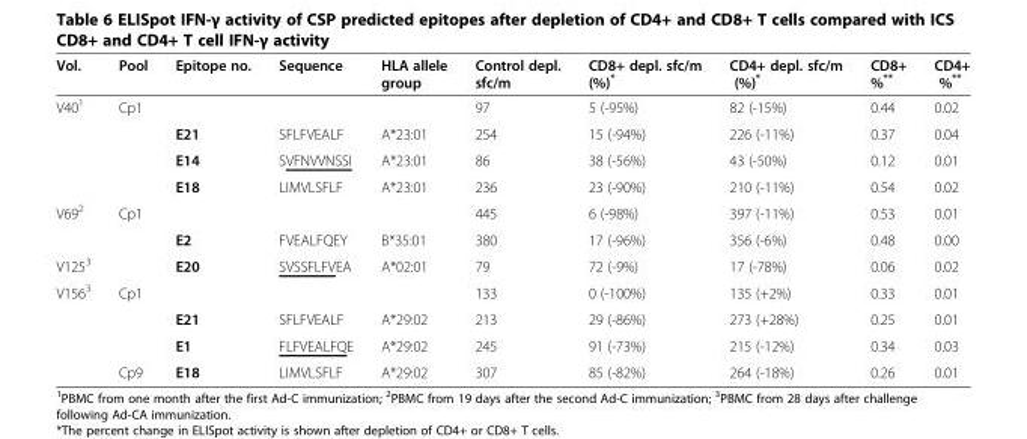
<table><thead><tr><td>Vol.</td><td>Pool</td><td>Epitope no.</td><td>Sequence</td><td>HLA allele group</td><td>Control depl. sfc/m</td><td>CD8+ depl. sfc/m (%)*</td><td>CD4+ depl. sfc/m (%)*</td><td>CD8+ %**</td><td>CD4+ %**</td></tr></thead><tbody><tr><td rowspan="4">V40<sup>1</sup></td><td>Cp1</td><td></td><td></td><td></td><td>97</td><td>5 (-95%)</td><td>82 (-15%)</td><td>0.44</td><td>0.02</td></tr><tr><td></td><td>E21</td><td>SFLFVEALF</td><td>A*23:01</td><td>254</td><td>15 (-94%)</td><td>226 (-11%)</td><td>0.37</td><td>0.04</td></tr><tr><td></td><td>E14</td><td>SVFNVVNSSI</td><td>A*23:01</td><td>86</td><td>38 (-56%)</td><td>43 (-50%)</td><td>0.12</td><td>0.01</td></tr><tr><td></td><td>E18</td><td>LIMVLSFLF</td><td>A*23:01</td><td>236</td><td>23 (-90%)</td><td>210 (-11%)</td><td>0.54</td><td>0.02</td></tr><tr><td rowspan="2">V69<sup>2</sup></td><td>Cp1</td><td></td><td></td><td></td><td>445</td><td>6 (-98%)</td><td>397 (-11%)</td><td>0.53</td><td>0.01</td></tr><tr><td></td><td>E2</td><td>FVEALFQEY</td><td>B*35:01</td><td>380</td><td>17 (-96%)</td><td>356 (-6%)</td><td>0.48</td><td>0.00</td></tr><tr><td>V125<sup>3</sup></td><td></td><td>E20</td><td>SVSSFLFVEA</td><td>A*02:01</td><td>79</td><td>72 (-9%)</td><td>17 (-78%)</td><td>0.06</td><td>0.02</td></tr><tr><td rowspan="4">V156<sup>3</sup></td><td>Cp1</td><td></td><td></td><td></td><td>133</td><td>0 (-100%)</td><td>135 (+2%)</td><td>0.33</td><td>0.01</td></tr><tr><td></td><td>E21</td><td>SFLFVEALF</td><td>A*29:02</td><td>213</td><td>29 (-86%)</td><td>273 (+28%)</td><td>0.25</td><td>0.01</td></tr><tr><td></td><td>E1</td><td>FLFVEALFQE</td><td>A*29:02</td><td>245</td><td>91 (-73%)</td><td>215 (-12%)</td><td>0.34</td><td>0.03</td></tr><tr><td>Cp9</td><td>E18</td><td>LIMVLSFLF</td><td>A*29:02</td><td>307</td><td>85 (-82%)</td><td>264 (-18%)</td><td>0.26</td><td>0.01</td></tr></tbody></table>